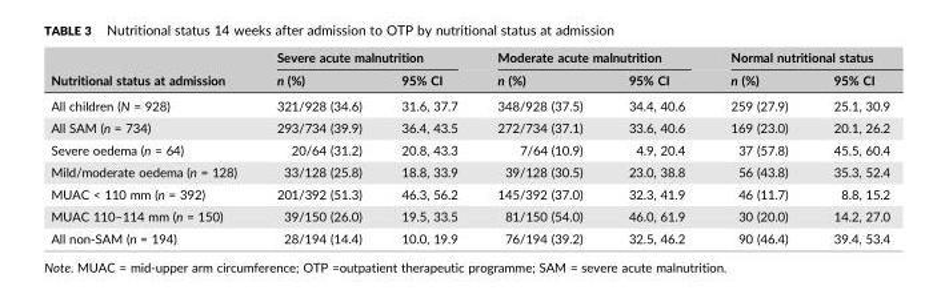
<table><thead><tr><td rowspan="2">Nutritional status at admission</td><td colspan="2">Severe acute malnutrition</td><td colspan="2">Moderate acute malnutrition</td><td colspan="2">Normal nutritional status</td></tr><tr><td>n (%)</td><td>95% CI</td><td>n (%)</td><td>95% CI</td><td>n (%)</td><td>95% CI</td></tr></thead><tbody><tr><td>All children (N = 928)</td><td>321/928 (34.6)</td><td>31.6, 37.7</td><td>348/928 (37.5)</td><td>34.4, 40.6</td><td>259 (27.9)</td><td>25.1, 30.9</td></tr><tr><td>All SAM (n = 734)</td><td>293/734 (39.9)</td><td>36.4, 43.5</td><td>272/734 (37.1)</td><td>33.6, 40.6</td><td>169 (23.0)</td><td>20.1, 26.2</td></tr><tr><td>Severe oedema (n = 64)</td><td>20/64 (31.2)</td><td>20.8, 43.3</td><td>7/64 (10.9)</td><td>4.9, 20.4</td><td>37 (57.8)</td><td>45.5, 60.4</td></tr><tr><td>Mild/moderate oedema (n = 128)</td><td>33/128 (25.8)</td><td>18.8, 33.9</td><td>39/128 (30.5)</td><td>23.0, 38.8</td><td>56 (43.8)</td><td>35.3, 52.4</td></tr><tr><td>MUAC &lt; 110 mm (n = 392)</td><td>201/392 (51.3)</td><td>46.3, 56.2</td><td>145/392 (37.0)</td><td>32.3, 41.9</td><td>46 (11.7)</td><td>8.8, 15.2</td></tr><tr><td>MUAC 110–114 mm (n = 150)</td><td>39/150 (26.0)</td><td>19.5, 33.5</td><td>81/150 (54.0)</td><td>46.0, 61.9</td><td>30 (20.0)</td><td>14.2, 27.0</td></tr><tr><td>All non‐SAM (n = 194)</td><td>28/194 (14.4)</td><td>10.0, 19.9</td><td>76/194 (39.2)</td><td>32.5, 46.2</td><td>90 (46.4)</td><td>39.4, 53.4</td></tr></tbody></table>